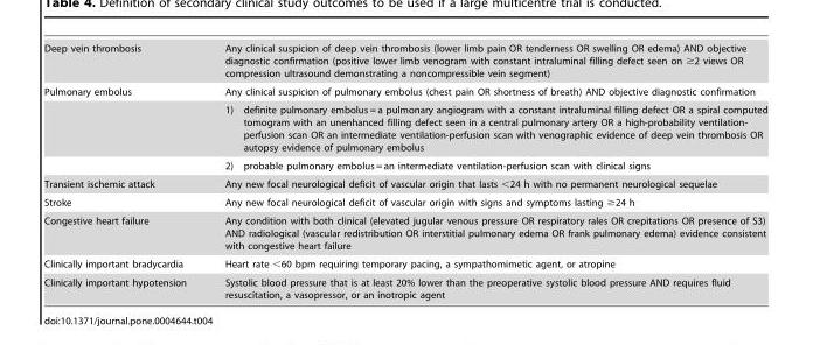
<table><tbody><tr><td>Deep vein thrombosis</td><td>Any clinical suspicion of deep vein thrombosis (lower limb pain OR tenderness OR swelling OR edema) AND objective diagnostic confirmation (positive lower limb venogram with constant intraluminal filling defect seen on ≥2 views OR compression ultrasound demonstrating a noncompressible vein segment)</td></tr><tr><td rowspan="3">Pulmonary embolus</td><td>Any clinical suspicion of pulmonary embolus (chest pain OR shortness of breath) AND objective diagnostic confirmation</td></tr><tr><td>1) definite pulmonary embolus = a pulmonary angiogram with a constant intraluminal filling defect OR a spiral computed tomogram with an unenhanced filling defect seen in a central pulmonary artery OR a high-probability ventilation- perfusion scan OR an intermediate ventilation-perfusion scan with venographic evidence of deep vein thrombosis OR autopsy evidence of pulmonary embolus</td></tr><tr><td>2) probable pulmonary embolus = an intermediate ventilation-perfusion scan with clinical signs</td></tr><tr><td>Transient ischemic attack</td><td>Any new focal neurological deficit of vascular origin that lasts &lt;24 h with no permanent neurological sequelae</td></tr><tr><td>Stroke</td><td>Any new focal neurological deficit of vascular origin with signs and symptoms lasting ≥24 h</td></tr><tr><td>Congestive heart failure</td><td>Any condition with both clinical (elevated jugular venous pressure OR respiratory rales OR crepitations OR presence of S3) AND radiological (vascular redistribution OR interstitial pulmonary edema OR frank pulmonary edema) evidence consistent with congestive heart failure</td></tr><tr><td>Clinically important bradycardia</td><td>Heart rate &lt;60 bpm requiring temporary pacing, a sympathomimetic agent, or atropine</td></tr><tr><td>Clinically important hypotension</td><td>Systolic blood pressure that is at least 20% lower than the preoperative systolic blood pressure AND requires fluid resuscitation, a vasopressor, or an inotropic agent</td></tr></tbody></table>